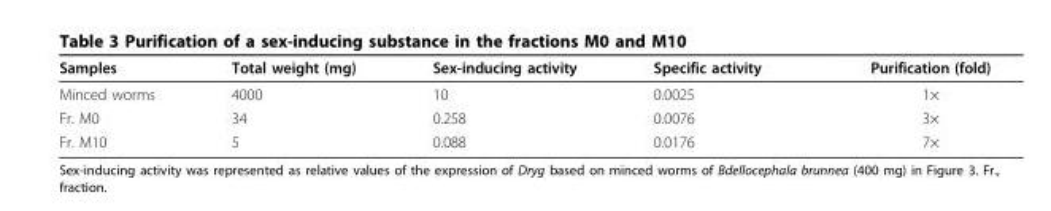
<table><thead><tr><td>Samples</td><td>Total weight (mg)</td><td>Sex-inducing activity</td><td>Specific activity</td><td>Purification (fold)</td></tr></thead><tbody><tr><td>Minced worms</td><td>4000</td><td>10</td><td>0.0025</td><td>1×</td></tr><tr><td>Fr. M0</td><td>34</td><td>0.258</td><td>0.0076</td><td>3×</td></tr><tr><td>Fr. M10</td><td>5</td><td>0.088</td><td>0.0176</td><td>7×</td></tr></tbody></table>